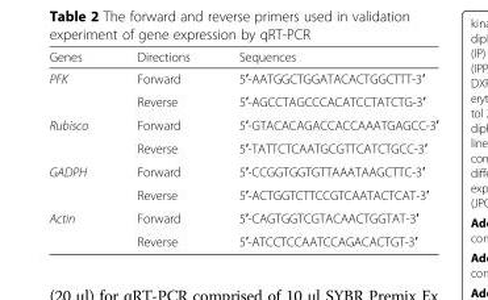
<table><thead><tr><td>Genes</td><td>Directions</td><td>Sequences</td></tr></thead><tbody><tr><td rowspan="2">PFK</td><td>Forward</td><td>5′-AATGGCTGGATACACTGGCTTT-3′</td></tr><tr><td>Reverse</td><td>5′-AGCCTAGCCCACATCCTATCTG-3′</td></tr><tr><td rowspan="2">Rubisco</td><td>Forward</td><td>5′-GTACACAGACCACCAAATGAGCC-3′</td></tr><tr><td>Reverse</td><td>5′-TATTCTCAATGCGTTCATCTGCC-3′</td></tr><tr><td rowspan="2">GADPH</td><td>Forward</td><td>5′-CCGGTGGTGTTAAATAAGCTTC-3′</td></tr><tr><td>Reverse</td><td>5′-ACTGGTCTTCCGTCAATACTCAT-3′</td></tr><tr><td rowspan="2">Actin</td><td>Forward</td><td>5′-CAGTGGTCGTACAACTGGTAT-3′</td></tr><tr><td>Reverse</td><td>5′-ATCCTCCAATCCAGACACTGT-3′</td></tr></tbody></table>